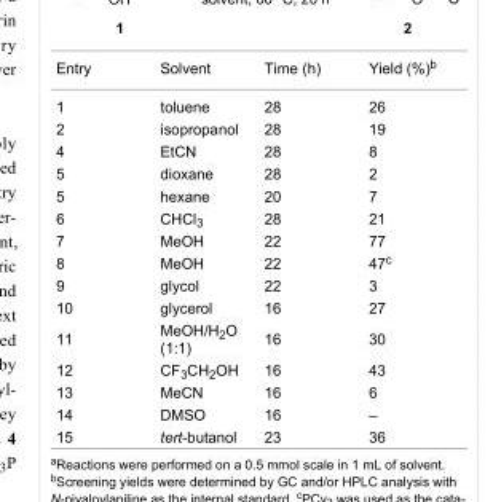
<table><tbody><tr><td>Entry</td><td>Solvent</td><td>Time (h)</td><td>Yield (%)<sup>b</sup></td></tr><tr><td>1</td><td>toluene</td><td>28</td><td>26</td></tr><tr><td>2</td><td>isopropanol</td><td>28</td><td>19</td></tr><tr><td>4</td><td>EtCN</td><td>28</td><td>8</td></tr><tr><td>5</td><td>dioxane</td><td>28</td><td>2</td></tr><tr><td>5</td><td>hexane</td><td>20</td><td>7</td></tr><tr><td>6</td><td>CHCl<sub>3</sub></td><td>28</td><td>21</td></tr><tr><td>7</td><td>MeOH</td><td>22</td><td>77</td></tr><tr><td>8</td><td>MeOH</td><td>22</td><td>47<sup>c</sup></td></tr><tr><td>9</td><td>glycol</td><td>22</td><td>3</td></tr><tr><td>10</td><td>glycerol</td><td>16</td><td>27</td></tr><tr><td>11</td><td>MeOH/H<sub>2</sub>O (1:1)</td><td>16</td><td>30</td></tr><tr><td>12</td><td>CF<sub>3</sub>CH<sub>2</sub>OH</td><td>16</td><td>43</td></tr><tr><td>13</td><td>MeCN</td><td>16</td><td>6</td></tr><tr><td>14</td><td>DMSO</td><td>16</td><td>–</td></tr><tr><td>15</td><td>tert-butanol</td><td>23</td><td>36</td></tr></tbody></table>